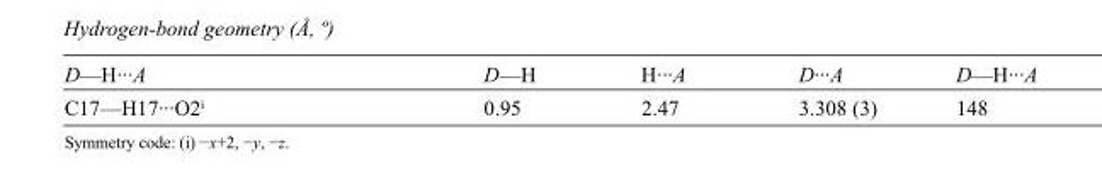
<table><tbody><tr><td>D—H···A</td><td>D—H</td><td>H···A</td><td>D···A</td><td>D—H···A</td></tr><tr><td>C17—H17···O2<sup>i</sup></td><td>0.95</td><td>2.47</td><td>3.308 (3)</td><td>148</td></tr></tbody></table>